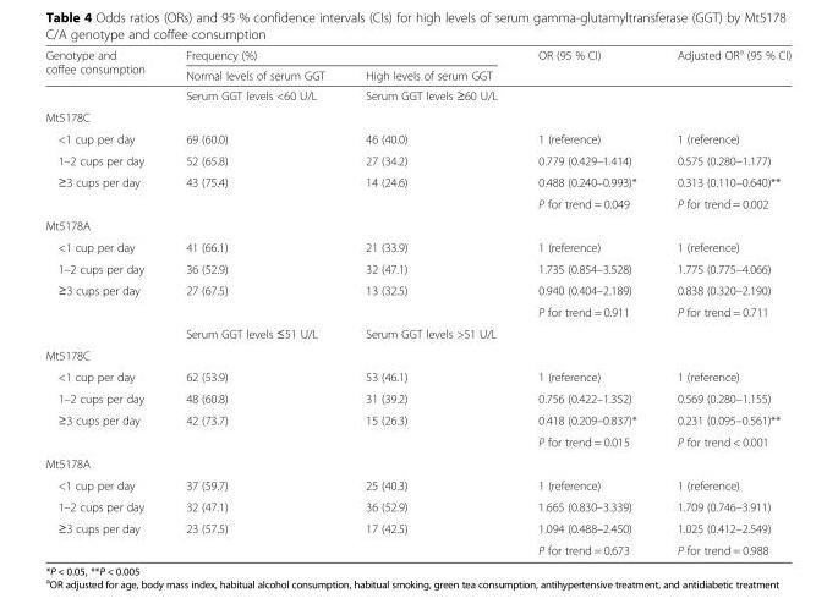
<table><thead><tr><td rowspan="2">Genotype and coffee consumption</td><td colspan="2">Frequency (%)</td><td rowspan="2">OR (95 % CI)</td><td rowspan="2">Adjusted OR<sup>a</sup> (95 % CI)</td></tr><tr><td>Normal levels of serum GGT</td><td>High levels of serum GGT</td></tr></thead><tbody><tr><td></td><td>Serum GGT levels &lt;60 U/L</td><td>Serum GGT levels ≥60 U/L</td><td></td><td></td></tr><tr><td colspan="5">Mt5178C</td></tr><tr><td>&lt;1 cup per day</td><td>69 (60.0)</td><td>46 (40.0)</td><td>1 (reference)</td><td>1 (reference)</td></tr><tr><td>1–2 cups per day</td><td>52 (65.8)</td><td>27 (34.2)</td><td>0.779 (0.429–1.414)</td><td>0.575 (0.280–1.177)</td></tr><tr><td rowspan="2">≥3 cups per day</td><td>43 (75.4)</td><td>14 (24.6)</td><td>0.488 (0.240–0.993)*</td><td>0.313 (0.110–0.640)**</td></tr><tr><td></td><td></td><td>P for trend = 0.049</td><td>P for trend = 0.002</td></tr><tr><td colspan="5">Mt5178A</td></tr><tr><td>&lt;1 cup per day</td><td>41 (66.1)</td><td>21 (33.9)</td><td>1 (reference)</td><td>1 (reference)</td></tr><tr><td>1–2 cups per day</td><td>36 (52.9)</td><td>32 (47.1)</td><td>1.735 (0.854–3.528)</td><td>1.775 (0.775–4.066)</td></tr><tr><td rowspan="3">≥3 cups per day</td><td>27 (67.5)</td><td>13 (32.5)</td><td>0.940 (0.404–2.189)</td><td>0.838 (0.320–2.190)</td></tr><tr><td></td><td></td><td>P for trend = 0.911</td><td>P for trend = 0.711</td></tr><tr><td>Serum GGT levels ≤51 U/L</td><td>Serum GGT levels &gt;51 U/L</td><td></td><td></td></tr><tr><td colspan="5">Mt5178C</td></tr><tr><td>&lt;1 cup per day</td><td>62 (53.9)</td><td>53 (46.1)</td><td>1 (reference)</td><td>1 (reference)</td></tr><tr><td>1–2 cups per day</td><td>48 (60.8)</td><td>31 (39.2)</td><td>0.756 (0.422–1.352)</td><td>0.569 (0.280–1.155)</td></tr><tr><td rowspan="2">≥3 cups per day</td><td>42 (73.7)</td><td>15 (26.3)</td><td>0.418 (0.209–0.837)*</td><td>0.231 (0.095–0.561)**</td></tr><tr><td></td><td></td><td>P for trend = 0.015</td><td>P for trend &lt; 0.001</td></tr><tr><td colspan="5">Mt5178A</td></tr><tr><td>&lt;1 cup per day</td><td>37 (59.7)</td><td>25 (40.3)</td><td>1 (reference)</td><td>1 (reference)</td></tr><tr><td>1–2 cups per day</td><td>32 (47.1)</td><td>36 (52.9)</td><td>1.665 (0.830–3.339)</td><td>1.709 (0.746–3.911)</td></tr><tr><td rowspan="2">≥3 cups per day</td><td>23 (57.5)</td><td>17 (42.5)</td><td>1.094 (0.488–2.450)</td><td>1.025 (0.412–2.549)</td></tr><tr><td></td><td></td><td>P for trend = 0.673</td><td>P for trend = 0.988</td></tr></tbody></table>